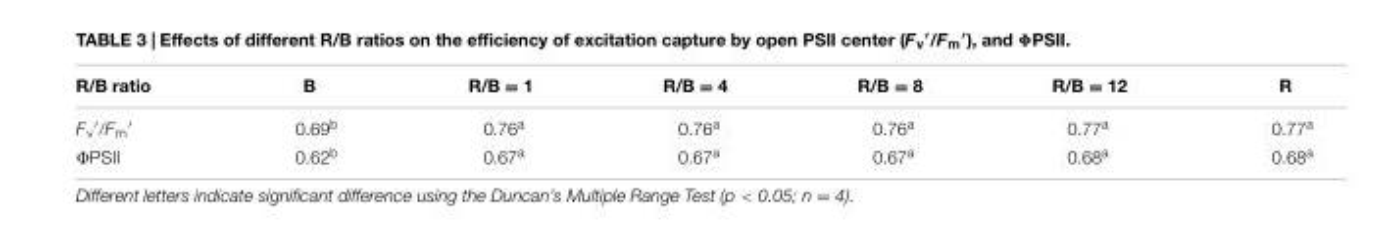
<table><thead><tr><td>R/B ratio</td><td>B</td><td>R/B = 1</td><td>R/B = 4</td><td>R/B = 8</td><td>R/B = 12</td><td>R</td></tr></thead><tbody><tr><td>F<sub>v</sub>′/F<sub>m</sub>′</td><td>0.69<sup>b</sup></td><td>0.76<sup>a</sup></td><td>0.76<sup>a</sup></td><td>0.76<sup>a</sup></td><td>0.77<sup>a</sup></td><td>0.77<sup>a</sup></td></tr><tr><td>ΦPSII</td><td>0.62<sup>b</sup></td><td>0.67<sup>a</sup></td><td>0.67<sup>a</sup></td><td>0.67<sup>a</sup></td><td>0.68<sup>a</sup></td><td>0.68<sup>a</sup></td></tr></tbody></table>